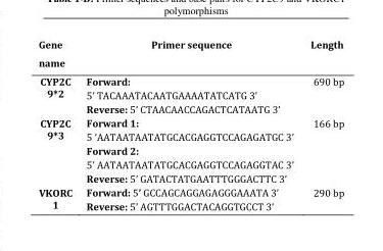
<table><thead><tr><td>Gene name</td><td>Primer sequence</td><td>Length</td></tr></thead><tbody><tr><td>CYP2C 9*2</td><td>Forward: 5’ TACAAATACAATGAAAATATCATG 3’ Reverse: 5’ CTAACAACCAGACTCATAATG 3’</td><td>690 bp</td></tr><tr><td>CYP2C 9*3</td><td>Forward 1: 5 ’AATAATAATATGCACGAGGTCCAGAGATGC 3’ Forward 2: 5’ AATAATAATATGCACGAGGTCCAGAGGTAC 3’ Reverse: 5’ GATACTATGAATTTGGGACTTC 3’</td><td>166 bp</td></tr><tr><td>VKORC 1</td><td>Forward: 5’ GCCAGCAGGAGAGGGAAATA 3’ Reverse: 5’ AGTTTGGACTACAGGTGCCT 3’</td><td>290 bp</td></tr></tbody></table>